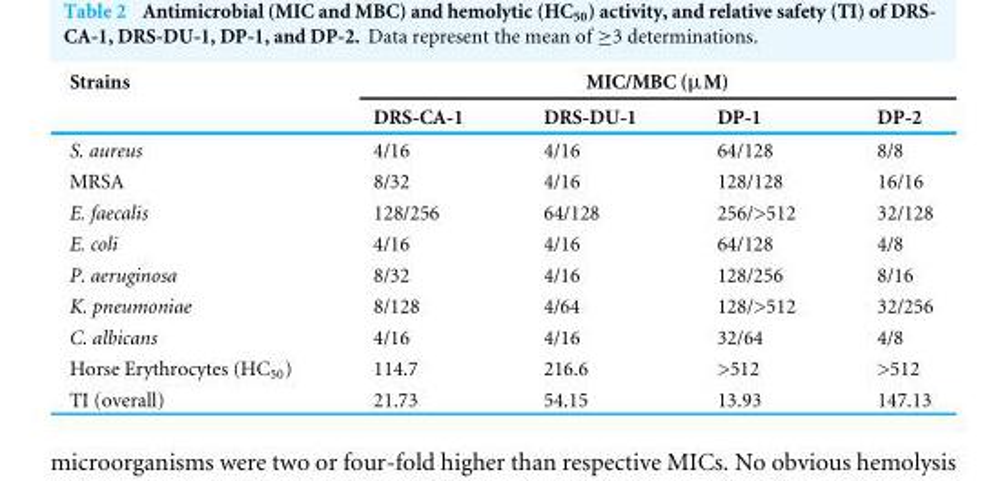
<table><thead><tr><td rowspan="2">Strains</td><td colspan="4">MIC/MBC (µM)</td></tr><tr><td>DRS-CA-1</td><td>DRS-DU-1</td><td>DP-1</td><td>DP-2</td></tr></thead><tbody><tr><td>S. aureus</td><td>4/16</td><td>4/16</td><td>64/128</td><td>8/8</td></tr><tr><td>MRSA</td><td>8/32</td><td>4/16</td><td>128/128</td><td>16/16</td></tr><tr><td>E. faecalis</td><td>128/256</td><td>64/128</td><td>256/&gt;512</td><td>32/128</td></tr><tr><td>E. coli</td><td>4/16</td><td>4/16</td><td>64/128</td><td>4/8</td></tr><tr><td>P. aeruginosa</td><td>8/32</td><td>4/16</td><td>128/256</td><td>8/16</td></tr><tr><td>K. pneumoniae</td><td>8/128</td><td>4/64</td><td>128/&gt;512</td><td>32/256</td></tr><tr><td>C. albicans</td><td>4/16</td><td>4/16</td><td>32/64</td><td>4/8</td></tr><tr><td>Horse Erythrocytes (HC<sub>50</sub>)</td><td>114.7</td><td>216.6</td><td>&gt;512</td><td>&gt;512</td></tr><tr><td>TI (overall)</td><td>21.73</td><td>54.15</td><td>13.93</td><td>147.13</td></tr></tbody></table>